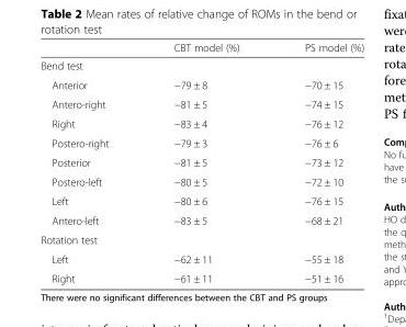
<table><thead><tr><td></td><td>CBT model (%)</td><td>PS model (%)</td></tr></thead><tbody><tr><td colspan="3">Bend test</td></tr><tr><td>Anterior</td><td>−79 ± 8</td><td>−70 ± 15</td></tr><tr><td>Antero-right</td><td>−81 ± 5</td><td>−74 ± 15</td></tr><tr><td>Right</td><td>−83 ± 4</td><td>−76 ± 12</td></tr><tr><td>Postero-right</td><td>−79 ± 3</td><td>−76 ± 6</td></tr><tr><td>Posterior</td><td>−81 ± 5</td><td>−73 ± 12</td></tr><tr><td>Postero-left</td><td>−80 ± 5</td><td>−72 ± 10</td></tr><tr><td>Left</td><td>−80 ± 6</td><td>−76 ± 15</td></tr><tr><td>Antero-left</td><td>−83 ± 5</td><td>−68 ± 21</td></tr><tr><td colspan="3">Rotation test</td></tr><tr><td>Left</td><td>−62 ± 11</td><td>−55 ± 18</td></tr><tr><td>Right</td><td>−61 ± 11</td><td>−51 ± 16</td></tr></tbody></table>